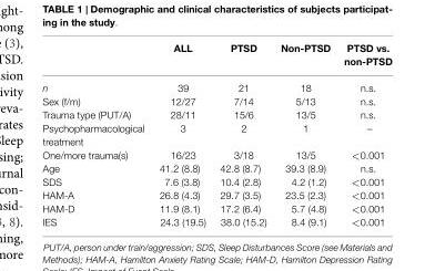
<table><thead><tr><td></td><td>ALL</td><td>PTSD</td><td>Non-PTSD</td><td>PTSD vs. non-PTSD</td></tr></thead><tbody><tr><td>n</td><td>39</td><td>21</td><td>18</td><td>n.s.</td></tr><tr><td>Sex (f/m)</td><td>12/27</td><td>7/14</td><td>5/13</td><td>n.s.</td></tr><tr><td>Trauma type (PUT/A)</td><td>28/11</td><td>15/6</td><td>13/5</td><td>n.s.</td></tr><tr><td>Psychopharmacological treatment</td><td>3</td><td>2</td><td>1</td><td>–</td></tr><tr><td>One/more trauma(s)</td><td>16/23</td><td>3/18</td><td>13/5</td><td>&lt;0.001</td></tr><tr><td>Age</td><td>41.2 (8.8)</td><td>42.8 (8.7)</td><td>39.3 (8.9)</td><td>n.s.</td></tr><tr><td>SDS</td><td>7.6 (3.8)</td><td>10.4 (2.8)</td><td>4.2 (1.2)</td><td>&lt;0.001</td></tr><tr><td>HAM-A</td><td>26.8 (4.3)</td><td>29.7 (3.5)</td><td>23.5 (2.3)</td><td>&lt;0.001</td></tr><tr><td>HAM-D</td><td>11.9 (8.1)</td><td>17.2 (6.4)</td><td>5.7 (4.8)</td><td>&lt;0.001</td></tr><tr><td>IES</td><td>24.3 (19.5)</td><td>38.0 (15.2)</td><td>8.4 (9.1)</td><td>&lt;0.001</td></tr></tbody></table>